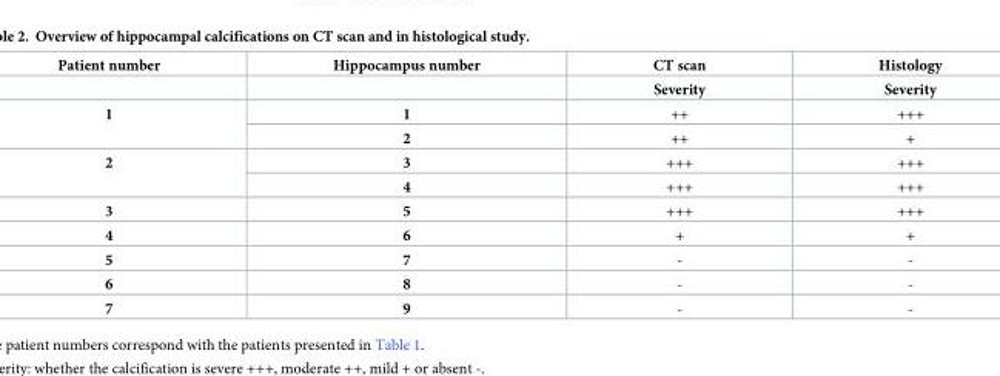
<table><thead><tr><td rowspan="2">Patient number</td><td rowspan="2">Hippocampus number</td><td rowspan="2">CT scan Severity</td><td rowspan="2">Histology Severity</td></tr><tr></tr></thead><tbody><tr><td rowspan="2">1</td><td>1</td><td>++</td><td>+++</td></tr><tr><td>2</td><td>++</td><td>+</td></tr><tr><td rowspan="2">2</td><td>3</td><td>+++</td><td>+++</td></tr><tr><td>4</td><td>+++</td><td>+++</td></tr><tr><td>3</td><td>5</td><td>+++</td><td>+++</td></tr><tr><td>4</td><td>6</td><td>+</td><td>+</td></tr><tr><td>5</td><td>7</td><td>-</td><td>-</td></tr><tr><td>6</td><td>8</td><td>-</td><td>-</td></tr><tr><td>7</td><td>9</td><td>-</td><td>-</td></tr></tbody></table>